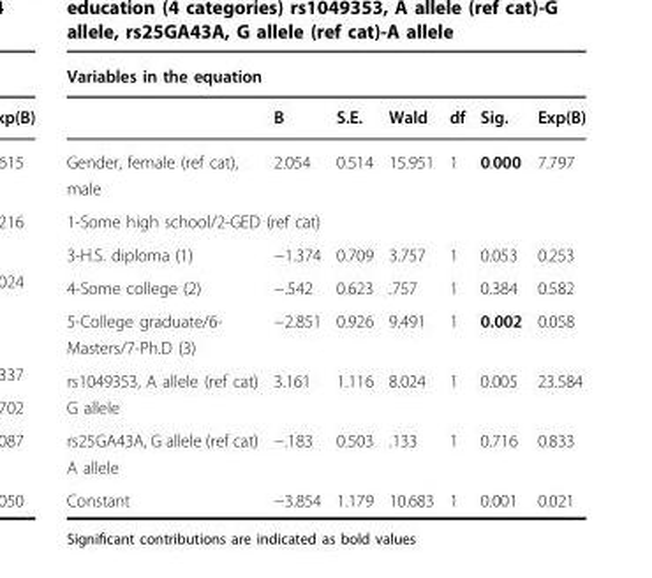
<table><thead><tr><td colspan="7">Variables in the equation</td></tr><tr><td></td><td>B</td><td>S.E.</td><td>Wald</td><td>df</td><td>Sig.</td><td>Exp(B)</td></tr></thead><tbody><tr><td>Gender, female (ref cat), male</td><td>2.054</td><td>0.514</td><td>15.951</td><td>1</td><td>0.000</td><td>7.797</td></tr><tr><td colspan="7">1-Some high school/2-GED (ref cat)</td></tr><tr><td>3-H.S. diploma (1)</td><td>−1.374</td><td>0.709</td><td>3.757</td><td>1</td><td>0.053</td><td>0.253</td></tr><tr><td>4-Some college (2)</td><td>−.542</td><td>0.623</td><td>.757</td><td>1</td><td>0.384</td><td>0.582</td></tr><tr><td>5-College graduate/6- Masters/7-Ph.D (3)</td><td>−2.851</td><td>0.926</td><td>9.491</td><td>1</td><td>0.002</td><td>0.058</td></tr><tr><td>rs1049353, A allele (ref cat) G allele</td><td>3.161</td><td>1.116</td><td>8.024</td><td>1</td><td>0.005</td><td>23.584</td></tr><tr><td>rs25GA43A, G allele (ref cat) A allele</td><td>−.183</td><td>0.503</td><td>.133</td><td>1</td><td>0.716</td><td>0.833</td></tr><tr><td>Constant</td><td>−3.854</td><td>1.179</td><td>10.683</td><td>1</td><td>0.001</td><td>0.021</td></tr></tbody></table>